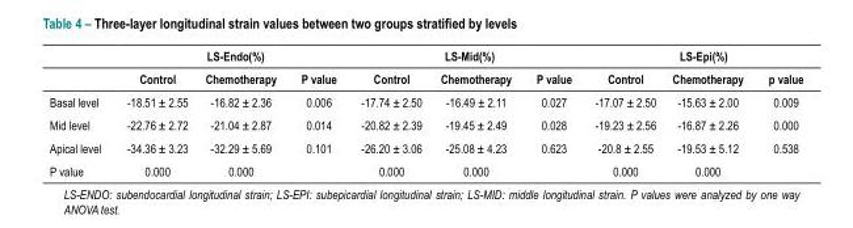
<table><thead><tr><td rowspan="2"></td><td colspan="3">LS-Endo(%)</td><td colspan="3">LS-Mid(%)</td><td colspan="3">LS-Epi(%)</td></tr><tr><td>Control</td><td>Chemotherapy</td><td>P value</td><td>Control</td><td>Chemotherapy</td><td>P value</td><td>Control</td><td>Chemotherapy</td><td>p value</td></tr></thead><tbody><tr><td>Basal level</td><td>-18.51 ± 2.55</td><td>-16.82 ± 2.36</td><td>0.006</td><td>-17.74 ± 2.50</td><td>-16.49 ± 2.11</td><td>0.027</td><td>-17.07 ± 2.50</td><td>-15.63 ± 2.00</td><td>0.009</td></tr><tr><td>Mid level</td><td>-22.76 ± 2.72</td><td>-21.04 ± 2.87</td><td>0.014</td><td>-20.82 ± 2.39</td><td>-19.45 ± 2.49</td><td>0.028</td><td>-19.23 ± 2.56</td><td>-16.87 ± 2.26</td><td>0.000</td></tr><tr><td>Apical level</td><td>-34.36 ± 3.23</td><td>-32.29 ± 5.69</td><td>0.101</td><td>-26.20 ± 3.06</td><td>-25.08 ± 4.23</td><td>0.623</td><td>-20.8 ± 2.55</td><td>-19.53 ± 5.12</td><td>0.538</td></tr><tr><td>P value</td><td>0.000</td><td>0.000</td><td></td><td>0.000</td><td>0.000</td><td></td><td>0.000</td><td>0.000</td><td></td></tr></tbody></table>